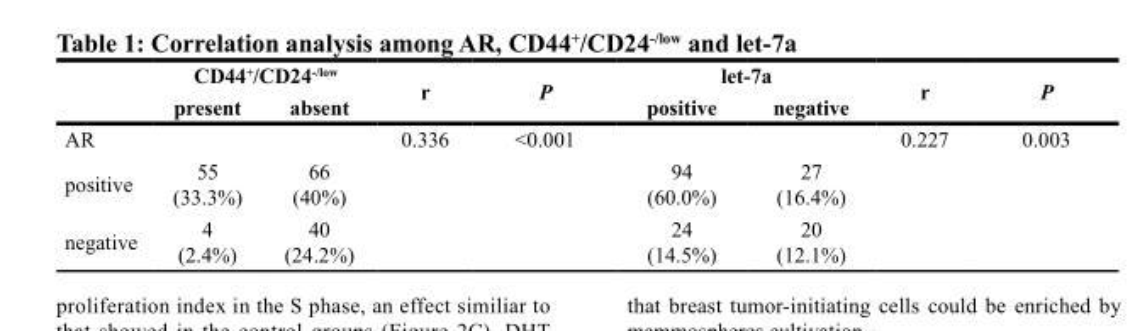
<table><thead><tr><td rowspan="2"></td><td colspan="2">CD44<sup>+</sup>/CD24<sup>-/low</sup></td><td rowspan="2">r</td><td rowspan="2">P</td><td colspan="2">let-7a</td><td rowspan="2">r</td><td rowspan="2">P</td></tr><tr><td>present</td><td>absent</td><td>positive</td><td>negative</td></tr></thead><tbody><tr><td>AR</td><td></td><td></td><td>0.336</td><td>&lt;0.001</td><td></td><td></td><td>0.227</td><td>0.003</td></tr><tr><td>positive</td><td>55 (33.3%)</td><td>66 (40%)</td><td></td><td></td><td>94 (60.0%)</td><td>27 (16.4%)</td><td></td><td></td></tr><tr><td>negative</td><td>4 (2.4%)</td><td>40 (24.2%)</td><td></td><td></td><td>24 (14.5%)</td><td>20 (12.1%)</td><td></td><td></td></tr></tbody></table>